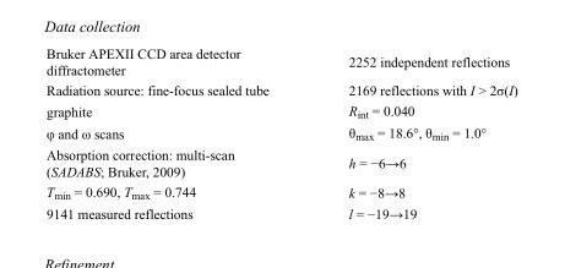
<table><tbody><tr><td>Bruker APEXII CCD area detector diffractometer</td><td>2252 independent reflections</td></tr><tr><td>Radiation source: fine-focus sealed tube</td><td>2169 reflections with I &gt; 2σ(I)</td></tr><tr><td>graphite</td><td>R<sub>int</sub> = 0.040</td></tr><tr><td>φ and ω scans</td><td>θ<sub>max</sub> = 18.6°, θ<sub>min</sub> = 1.0°</td></tr><tr><td>Absorption correction: multi-scan (SADABS; Bruker, 2009)</td><td>h = −6→6</td></tr><tr><td>T<sub>min</sub> = 0.690, T<sub>max</sub> = 0.744</td><td>k = −8→8</td></tr><tr><td>9141 measured reflections</td><td>l = −19→19</td></tr></tbody></table>